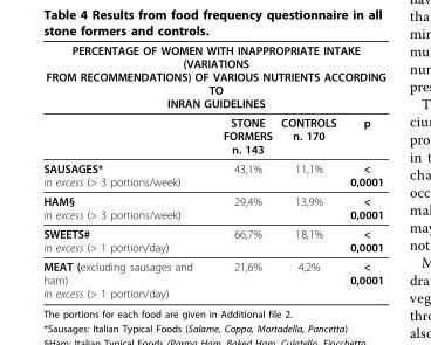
<table><thead><tr><td colspan="4">PERCENTAGE OF WOMEN WITH INAPPROPRIATE INTAKE (VARIATIONS FROM RECOMMENDATIONS) OF VARIOUS NUTRIENTS ACCORDING TO INRAN GUIDELINES</td></tr><tr><td></td><td>STONE FORMERS n. 143</td><td>CONTROLS n. 170</td><td>p</td></tr></thead><tbody><tr><td>SAUSAGES* in excess (&gt; 3 portions/week)</td><td>43,1%</td><td>11,1%</td><td>&lt; 0,0001</td></tr><tr><td>HAM§ in excess (&gt; 3 portions/week)</td><td>29,4%</td><td>13,9%</td><td>&lt; 0,0001</td></tr><tr><td>SWEETS# in excess (&gt; 1 portion/day)</td><td>66,7%</td><td>18,1%</td><td>&lt; 0,0001</td></tr><tr><td>MEAT (excluding sausages and ham) in excess (&gt; 1 portion/day)</td><td>21,6%</td><td>4,2%</td><td>&lt; 0,0001</td></tr></tbody></table>